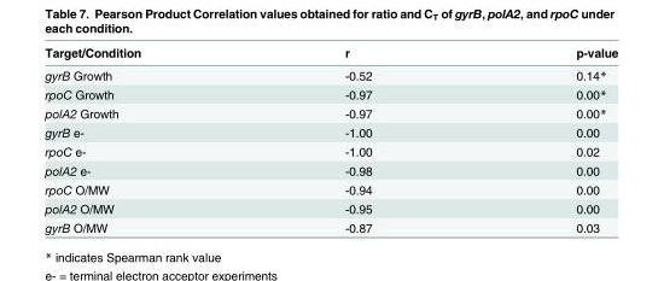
<table><thead><tr><td>Target/Condition</td><td>r</td><td>p-value</td></tr></thead><tbody><tr><td>gyrB Growth</td><td>-0.52</td><td>0.14*</td></tr><tr><td>rpoC Growth</td><td>-0.97</td><td>0.00*</td></tr><tr><td>polA2 Growth</td><td>-0.97</td><td>0.00*</td></tr><tr><td>gyrB e-</td><td>-1.00</td><td>0.00</td></tr><tr><td>rpoC e-</td><td>-1.00</td><td>0.02</td></tr><tr><td>polA2 e-</td><td>-0.98</td><td>0.00</td></tr><tr><td>rpoC O/MW</td><td>-0.94</td><td>0.00</td></tr><tr><td>polA2 O/MW</td><td>-0.95</td><td>0.00</td></tr><tr><td>gyrB O/MW</td><td>-0.87</td><td>0.03</td></tr></tbody></table>